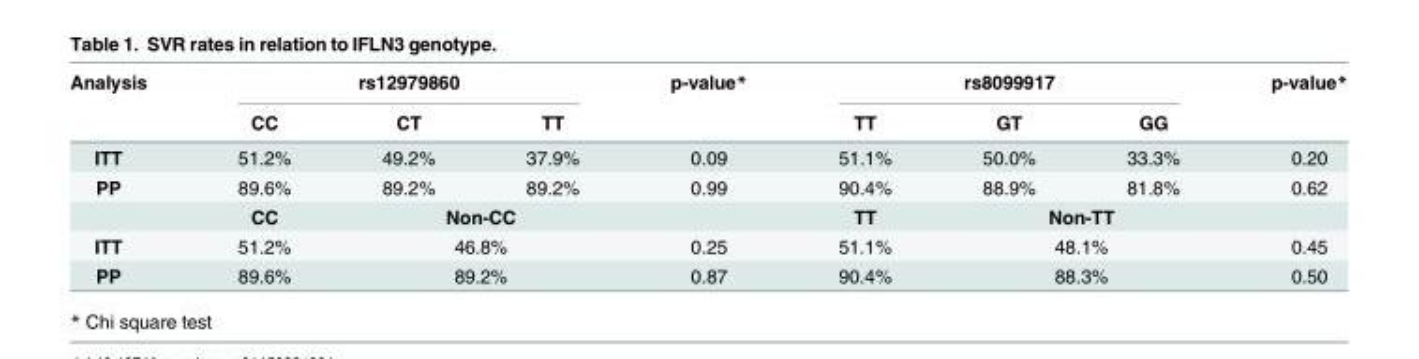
<table><thead><tr><td rowspan="2">Analysis</td><td colspan="3">rs12979860</td><td rowspan="2">p-value*</td><td colspan="3">rs8099917</td><td rowspan="2">p-value*</td></tr><tr><td>CC</td><td>CT</td><td>TT</td><td>TT</td><td>GT</td><td>GG</td></tr></thead><tbody><tr><td>ITT</td><td>51.2%</td><td>49.2%</td><td>37.9%</td><td>0.09</td><td>51.1%</td><td>50.0%</td><td>33.3%</td><td>0.20</td></tr><tr><td rowspan="2">PP</td><td>89.6%</td><td>89.2%</td><td>89.2%</td><td>0.99</td><td>90.4%</td><td>88.9%</td><td>81.8%</td><td>0.62</td></tr><tr><td>CC</td><td colspan="2">Non-CC</td><td></td><td>TT</td><td colspan="2">Non-TT</td><td></td></tr><tr><td>ITT</td><td>51.2%</td><td colspan="2">46.8%</td><td>0.25</td><td>51.1%</td><td colspan="2">48.1%</td><td>0.45</td></tr><tr><td>PP</td><td>89.6%</td><td colspan="2">89.2%</td><td>0.87</td><td>90.4%</td><td colspan="2">88.3%</td><td>0.50</td></tr></tbody></table>